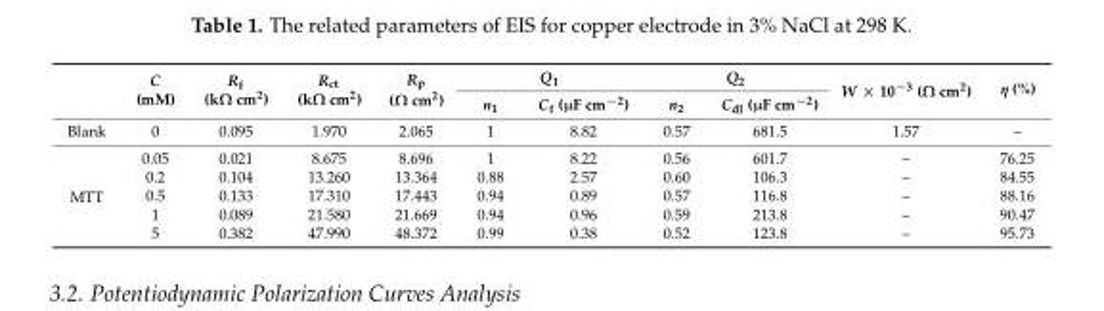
<table><thead><tr><td rowspan="2"></td><td rowspan="2">C (mM)</td><td rowspan="2">R<sub>f</sub> (kΩ cm<sup>2</sup>)</td><td rowspan="2">R<sub>ct</sub> (kΩ cm<sup>2</sup>)</td><td rowspan="2">R<sub>p</sub> (Ω cm<sup>2</sup>)</td><td colspan="2">Q<sub>1</sub></td><td colspan="2">Q<sub>2</sub></td><td rowspan="2">W × 10<sup>−3</sup> (Ω cm<sup>2</sup>)</td><td rowspan="2">η (%)</td></tr><tr><td>n<sub>1</sub></td><td>C<sub>f</sub> (µF cm<sup>−2</sup>)</td><td>n<sub>2</sub></td><td>C<sub>dl</sub> (µF cm<sup>−2</sup>)</td></tr></thead><tbody><tr><td>Blank</td><td>0</td><td>0.095</td><td>1.970</td><td>2.065</td><td>1</td><td>8.82</td><td>0.57</td><td>681.5</td><td>1.57</td><td>–</td></tr><tr><td rowspan="5">MTT</td><td>0.05</td><td>0.021</td><td>8.675</td><td>8.696</td><td>1</td><td>8.22</td><td>0.56</td><td>601.7</td><td>–</td><td>76.25</td></tr><tr><td>0.2</td><td>0.104</td><td>13.260</td><td>13.364</td><td>0.88</td><td>2.57</td><td>0.60</td><td>106.3</td><td>–</td><td>84.55</td></tr><tr><td>0.5</td><td>0.133</td><td>17.310</td><td>17.443</td><td>0.94</td><td>0.89</td><td>0.57</td><td>116.8</td><td>–</td><td>88.16</td></tr><tr><td>1</td><td>0.089</td><td>21.580</td><td>21.669</td><td>0.94</td><td>0.96</td><td>0.59</td><td>213.8</td><td>–</td><td>90.47</td></tr><tr><td>5</td><td>0.382</td><td>47.990</td><td>48.372</td><td>0.99</td><td>0.38</td><td>0.52</td><td>123.8</td><td>–</td><td>95.73</td></tr></tbody></table>